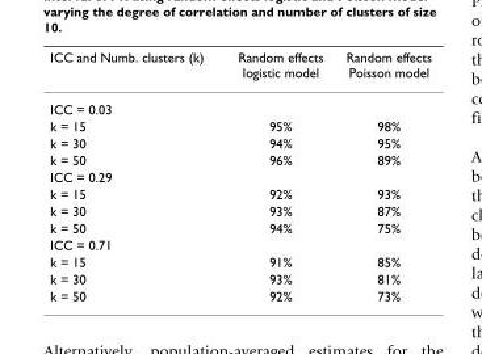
<table><thead><tr><td>ICC and Numb. clusters (k)</td><td>Random effects logistic model</td><td>Random effects Poisson model</td></tr></thead><tbody><tr><td colspan="3">ICC = 0.03</td></tr><tr><td>k = 15</td><td>95%</td><td>98%</td></tr><tr><td>k = 30</td><td>94%</td><td>95%</td></tr><tr><td>k = 50</td><td>96%</td><td>89%</td></tr><tr><td colspan="3">ICC = 0.29</td></tr><tr><td>k = 15</td><td>92%</td><td>93%</td></tr><tr><td>k = 30</td><td>93%</td><td>87%</td></tr><tr><td>k = 50</td><td>94%</td><td>75%</td></tr><tr><td colspan="3">ICC = 0.71</td></tr><tr><td>k = 15</td><td>91%</td><td>85%</td></tr><tr><td>k = 30</td><td>93%</td><td>81%</td></tr><tr><td>k = 50</td><td>92%</td><td>73%</td></tr></tbody></table>